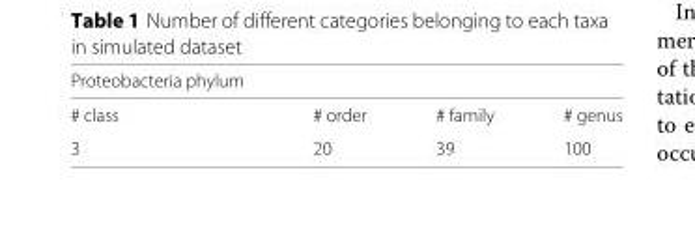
<table><thead><tr><td>Proteobacteria phylum</td><td></td><td></td><td></td></tr></thead><tbody><tr><td># class</td><td># order</td><td># family</td><td># genus</td></tr><tr><td>3</td><td>20</td><td>39</td><td>100</td></tr></tbody></table>